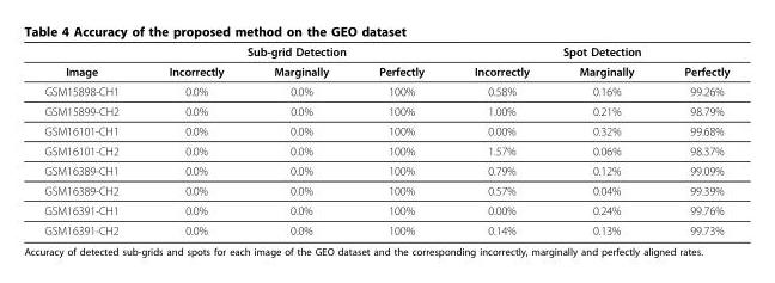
<table><thead><tr><td rowspan="2">Image</td><td colspan="3">Sub-grid Detection</td><td colspan="3">Spot Detection</td></tr><tr><td>Incorrectly</td><td>Marginally</td><td>Perfectly</td><td>Incorrectly</td><td>Marginally</td><td>Perfectly</td></tr></thead><tbody><tr><td>GSM15898-CH1</td><td>0.0%</td><td>0.0%</td><td>100%</td><td>0.58%</td><td>0.16%</td><td>99.26%</td></tr><tr><td>GSM15899-CH2</td><td>0.0%</td><td>0.0%</td><td>100%</td><td>1.00%</td><td>0.21%</td><td>98.79%</td></tr><tr><td>GSM16101-CH1</td><td>0.0%</td><td>0.0%</td><td>100%</td><td>0.00%</td><td>0.32%</td><td>99.68%</td></tr><tr><td>GSM16101-CH2</td><td>0.0%</td><td>0.0%</td><td>100%</td><td>1.57%</td><td>0.06%</td><td>98.37%</td></tr><tr><td>GSM16389-CH1</td><td>0.0%</td><td>0.0%</td><td>100%</td><td>0.79%</td><td>0.12%</td><td>99.09%</td></tr><tr><td>GSM16389-CH2</td><td>0.0%</td><td>0.0%</td><td>100%</td><td>0.57%</td><td>0.04%</td><td>99.39%</td></tr><tr><td>GSM16391-CH1</td><td>0.0%</td><td>0.0%</td><td>100%</td><td>0.00%</td><td>0.24%</td><td>99.76%</td></tr><tr><td>GSM16391-CH2</td><td>0.0%</td><td>0.0%</td><td>100%</td><td>0.14%</td><td>0.13%</td><td>99.73%</td></tr></tbody></table>